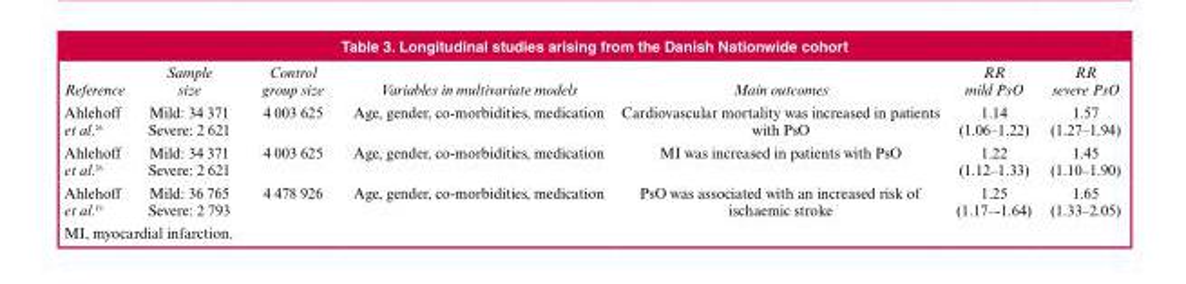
<table><thead><tr><td>Reference</td><td>Sample size</td><td>Control group size</td><td>Variables in multivariate models</td><td>Main outcomes</td><td>RR mild PsO</td><td>RR severe PsO</td></tr></thead><tbody><tr><td>Ahlehoff et al.<sup>26</sup></td><td>Mild: 34 371 Severe: 2 621</td><td>4 003 625</td><td>Age, gender, co-morbidities, medication</td><td>Cardiovascular mortality was increased in patients with PsO</td><td>1.14 (1.06–1.22)</td><td>1.57 (1.27–1.94)</td></tr><tr><td>Ahlehoff et al.<sup>26</sup></td><td>Mild: 34 371 Severe: 2 621</td><td>4 003 625</td><td>Age, gender, co-morbidities, medication</td><td>MI was increased in patients with PsO</td><td>1.22 (1.12–1.33)</td><td>1.45 (1.10–1.90)</td></tr><tr><td>Ahlehoff et al.<sup>19</sup></td><td>Mild: 36 765 Severe: 2 793</td><td>4 478 926</td><td>Age, gender, co-morbidities, medication</td><td>PsO was associated with an increased risk of ischaemic stroke</td><td>1.25 (1.17–-1.64)</td><td>1.65 (1.33–2.05)</td></tr></tbody></table>